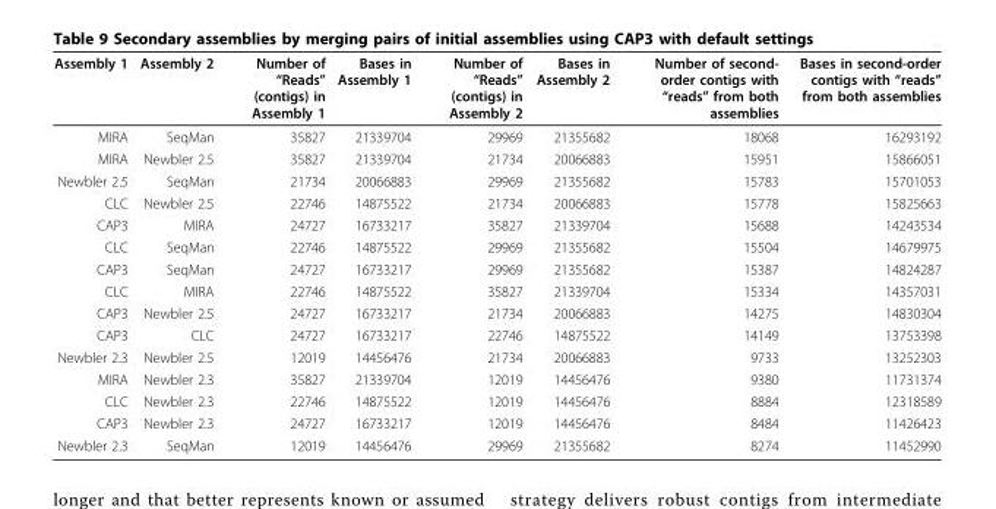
<table><thead><tr><td>Assembly 1</td><td>Assembly 2</td><td>Number of “Reads” (contigs) in Assembly 1</td><td>Bases in Assembly 1</td><td>Number of “Reads” (contigs) in Assembly 2</td><td>Bases in Assembly 2</td><td>Number of second- order contigs with “reads” from both assemblies</td><td>Bases in second-order contigs with “reads” from both assemblies</td></tr></thead><tbody><tr><td>MIRA</td><td>SeqMan</td><td>35827</td><td>21339704</td><td>29969</td><td>21355682</td><td>18068</td><td>16293192</td></tr><tr><td>MIRA</td><td>Newbler 2.5</td><td>35827</td><td>21339704</td><td>21734</td><td>20066883</td><td>15951</td><td>15866051</td></tr><tr><td>Newbler 2.5</td><td>SeqMan</td><td>21734</td><td>20066883</td><td>29969</td><td>21355682</td><td>15783</td><td>15701053</td></tr><tr><td>CLC</td><td>Newbler 2.5</td><td>22746</td><td>14875522</td><td>21734</td><td>20066883</td><td>15778</td><td>15825663</td></tr><tr><td>CAP3</td><td>MIRA</td><td>24727</td><td>16733217</td><td>35827</td><td>21339704</td><td>15688</td><td>14243534</td></tr><tr><td>CLC</td><td>SeqMan</td><td>22746</td><td>14875522</td><td>29969</td><td>21355682</td><td>15504</td><td>14679975</td></tr><tr><td>CAP3</td><td>SeqMan</td><td>24727</td><td>16733217</td><td>29969</td><td>21355682</td><td>15387</td><td>14824287</td></tr><tr><td>CLC</td><td>MIRA</td><td>22746</td><td>14875522</td><td>35827</td><td>21339704</td><td>15334</td><td>14357031</td></tr><tr><td>CAP3</td><td>Newbler 2.5</td><td>24727</td><td>16733217</td><td>21734</td><td>20066883</td><td>14275</td><td>14830304</td></tr><tr><td>CAP3</td><td>CLC</td><td>24727</td><td>16733217</td><td>22746</td><td>14875522</td><td>14149</td><td>13753398</td></tr><tr><td>Newbler 2.3</td><td>Newbler 2.5</td><td>12019</td><td>14456476</td><td>21734</td><td>20066883</td><td>9733</td><td>13252303</td></tr><tr><td>MIRA</td><td>Newbler 2.3</td><td>35827</td><td>21339704</td><td>12019</td><td>14456476</td><td>9380</td><td>11731374</td></tr><tr><td>CLC</td><td>Newbler 2.3</td><td>22746</td><td>14875522</td><td>12019</td><td>14456476</td><td>8884</td><td>12318589</td></tr><tr><td>CAP3</td><td>Newbler 2.3</td><td>24727</td><td>16733217</td><td>12019</td><td>14456476</td><td>8484</td><td>11426423</td></tr><tr><td>Newbler 2.3</td><td>SeqMan</td><td>12019</td><td>14456476</td><td>29969</td><td>21355682</td><td>8274</td><td>11452990</td></tr></tbody></table>